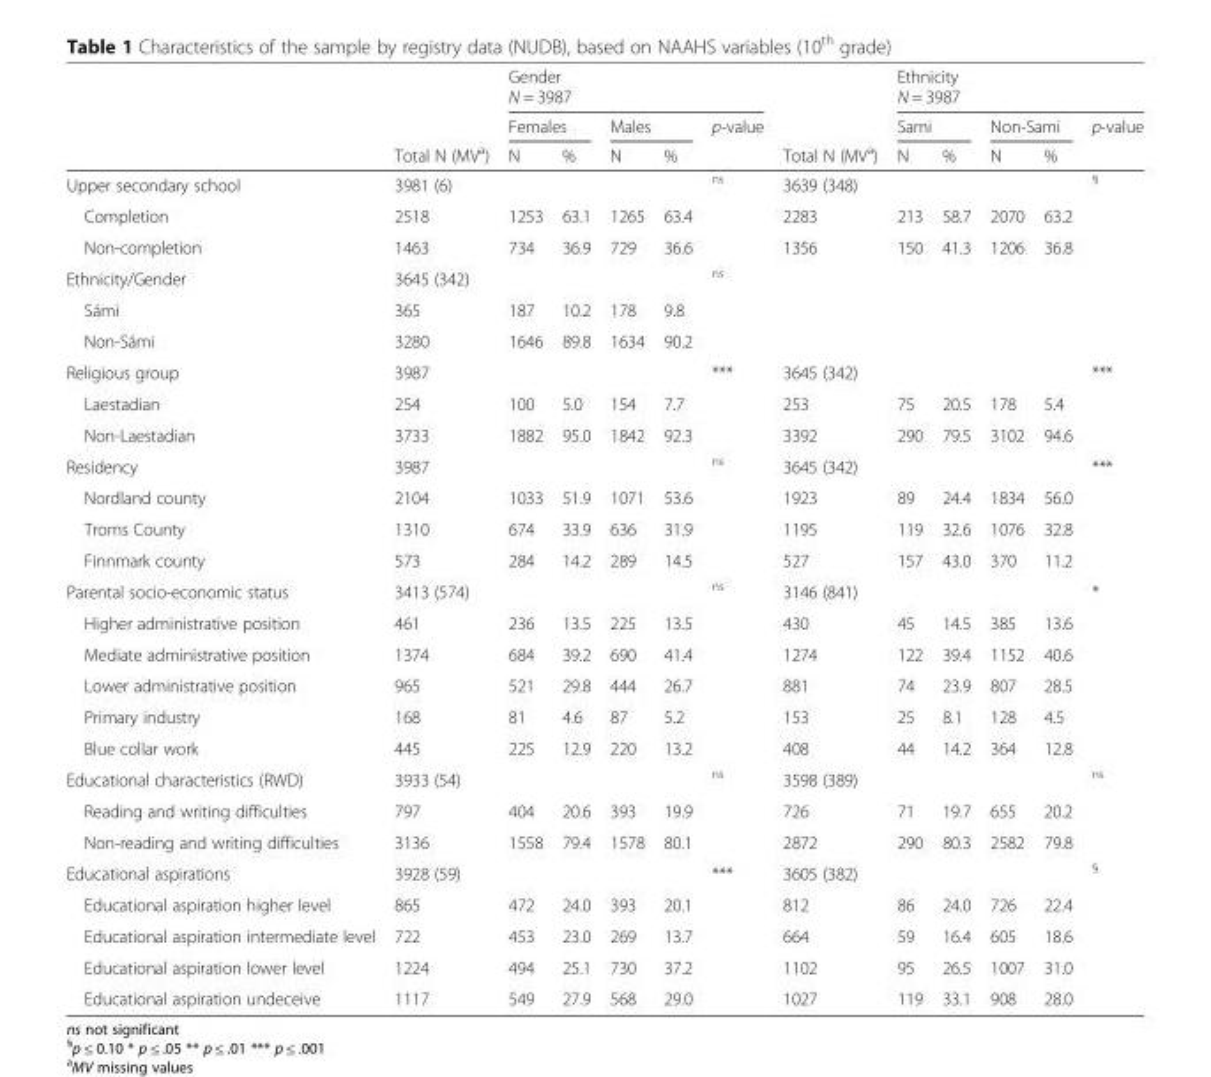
<table><thead><tr><td rowspan="3"></td><td rowspan="3">Total N (MV<sup>a</sup>)</td><td colspan="5">Gender N = 3987</td><td rowspan="3">Total N (MV<sup>a</sup>)</td><td colspan="5">Ethnicity N = 3987</td></tr><tr><td colspan="2">Females</td><td colspan="2">Males</td><td rowspan="2">p-value</td><td colspan="2">Sami</td><td colspan="2">Non-Sami</td><td rowspan="2">p-value</td></tr><tr><td>N</td><td>%</td><td>N</td><td>%</td><td>N</td><td>%</td><td>N</td><td>%</td></tr></thead><tbody><tr><td>Upper secondary school</td><td>3981 (6)</td><td></td><td></td><td></td><td></td><td><sup>ns</sup></td><td>3639 (348)</td><td></td><td></td><td></td><td></td><td><sup>§</sup></td></tr><tr><td>Completion</td><td>2518</td><td>1253</td><td>63.1</td><td>1265</td><td>63.4</td><td></td><td>2283</td><td>213</td><td>58.7</td><td>2070</td><td>63.2</td><td></td></tr><tr><td>Non-completion</td><td>1463</td><td>734</td><td>36.9</td><td>729</td><td>36.6</td><td></td><td>1356</td><td>150</td><td>41.3</td><td>1206</td><td>36.8</td><td></td></tr><tr><td>Ethnicity/Gender</td><td>3645 (342)</td><td></td><td></td><td></td><td></td><td><sup>ns</sup></td><td></td><td></td><td></td><td></td><td></td><td></td></tr><tr><td>Sámi</td><td>365</td><td>187</td><td>10.2</td><td>178</td><td>9.8</td><td></td><td></td><td></td><td></td><td></td><td></td><td></td></tr><tr><td>Non-Sámi</td><td>3280</td><td>1646</td><td>89.8</td><td>1634</td><td>90.2</td><td></td><td></td><td></td><td></td><td></td><td></td><td></td></tr><tr><td>Religious group</td><td>3987</td><td></td><td></td><td></td><td></td><td>***</td><td>3645 (342)</td><td></td><td></td><td></td><td></td><td>***</td></tr><tr><td>Laestadian</td><td>254</td><td>100</td><td>5.0</td><td>154</td><td>7.7</td><td></td><td>253</td><td>75</td><td>20.5</td><td>178</td><td>5.4</td><td></td></tr><tr><td>Non-Laestadian</td><td>3733</td><td>1882</td><td>95.0</td><td>1842</td><td>92.3</td><td></td><td>3392</td><td>290</td><td>79.5</td><td>3102</td><td>94.6</td><td></td></tr><tr><td>Residency</td><td>3987</td><td></td><td></td><td></td><td></td><td><sup>ns</sup></td><td>3645 (342)</td><td></td><td></td><td></td><td></td><td>***</td></tr><tr><td>Nordland county</td><td>2104</td><td>1033</td><td>51.9</td><td>1071</td><td>53.6</td><td></td><td>1923</td><td>89</td><td>24.4</td><td>1834</td><td>56.0</td><td></td></tr><tr><td>Troms County</td><td>1310</td><td>674</td><td>33.9</td><td>636</td><td>31.9</td><td></td><td>1195</td><td>119</td><td>32.6</td><td>1076</td><td>32.8</td><td></td></tr><tr><td>Finnmark county</td><td>573</td><td>284</td><td>14.2</td><td>289</td><td>14.5</td><td></td><td>527</td><td>157</td><td>43.0</td><td>370</td><td>11.2</td><td></td></tr><tr><td>Parental socio-economic status</td><td>3413 (574)</td><td></td><td></td><td></td><td></td><td><sup>ns</sup></td><td>3146 (841)</td><td></td><td></td><td></td><td></td><td>*</td></tr><tr><td>Higher administrative position</td><td>461</td><td>236</td><td>13.5</td><td>225</td><td>13.5</td><td></td><td>430</td><td>45</td><td>14.5</td><td>385</td><td>13.6</td><td></td></tr><tr><td>Mediate administrative position</td><td>1374</td><td>684</td><td>39.2</td><td>690</td><td>41.4</td><td></td><td>1274</td><td>122</td><td>39.4</td><td>1152</td><td>40.6</td><td></td></tr><tr><td>Lower administrative position</td><td>965</td><td>521</td><td>29.8</td><td>444</td><td>26.7</td><td></td><td>881</td><td>74</td><td>23.9</td><td>807</td><td>28.5</td><td></td></tr><tr><td>Primary industry</td><td>168</td><td>81</td><td>4.6</td><td>87</td><td>5.2</td><td></td><td>153</td><td>25</td><td>8.1</td><td>128</td><td>4.5</td><td></td></tr><tr><td>Blue collar work</td><td>445</td><td>225</td><td>12.9</td><td>220</td><td>13.2</td><td></td><td>408</td><td>44</td><td>14.2</td><td>364</td><td>12.8</td><td></td></tr><tr><td>Educational characteristics (RWD)</td><td>3933 (54)</td><td></td><td></td><td></td><td></td><td><sup>ns</sup></td><td>3598 (389)</td><td></td><td></td><td></td><td></td><td><sup>ns</sup></td></tr><tr><td>Reading and writing difficulties</td><td>797</td><td>404</td><td>20.6</td><td>393</td><td>19.9</td><td></td><td>726</td><td>71</td><td>19.7</td><td>655</td><td>20.2</td><td></td></tr><tr><td>Non-reading and writing difficulties</td><td>3136</td><td>1558</td><td>79.4</td><td>1578</td><td>80.1</td><td></td><td>2872</td><td>290</td><td>80.3</td><td>2582</td><td>79.8</td><td></td></tr><tr><td>Educational aspirations</td><td>3928 (59)</td><td></td><td></td><td></td><td></td><td>***</td><td>3605 (382)</td><td></td><td></td><td></td><td></td><td><sup>§</sup></td></tr><tr><td>Educational aspiration higher level</td><td>865</td><td>472</td><td>24.0</td><td>393</td><td>20.1</td><td></td><td>812</td><td>86</td><td>24.0</td><td>726</td><td>22.4</td><td></td></tr><tr><td>Educational aspiration intermediate level</td><td>722</td><td>453</td><td>23.0</td><td>269</td><td>13.7</td><td></td><td>664</td><td>59</td><td>16.4</td><td>605</td><td>18.6</td><td></td></tr><tr><td>Educational aspiration lower level</td><td>1224</td><td>494</td><td>25.1</td><td>730</td><td>37.2</td><td></td><td>1102</td><td>95</td><td>26.5</td><td>1007</td><td>31.0</td><td></td></tr><tr><td>Educational aspiration undeceive</td><td>1117</td><td>549</td><td>27.9</td><td>568</td><td>29.0</td><td></td><td>1027</td><td>119</td><td>33.1</td><td>908</td><td>28.0</td><td></td></tr></tbody></table>